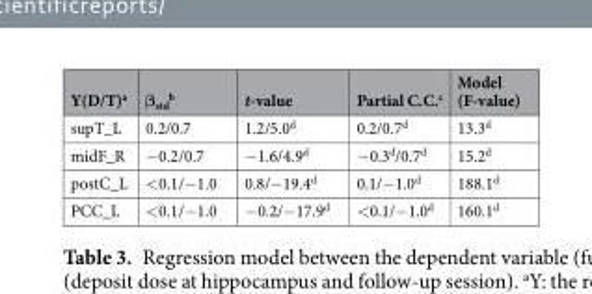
<table><thead><tr><td>Y(D/T)<sup>a</sup></td><td>β<sub>std</sub> <sup>b</sup></td><td>t-value</td><td>Partial C.C.<sup>c</sup></td><td>Model (F-value)</td></tr></thead><tbody><tr><td>supT_L</td><td>0.2/0.7</td><td>1.2/5.0<sup>d</sup></td><td>0.2/0.7<sup>d</sup></td><td>13.3<sup>d</sup></td></tr><tr><td>midF_R</td><td>−0.2/0.7</td><td>−1.6/4.9<sup>d</sup></td><td>−0.3<sup>d</sup>/0.7<sup>d</sup></td><td>15.2<sup>d</sup></td></tr><tr><td>postC_L</td><td>&lt;0.1/−1.0</td><td>0.8/−19.4<sup>d</sup></td><td>0.1/−1.0<sup>d</sup></td><td>188.1<sup>d</sup></td></tr><tr><td>PCC_L</td><td>&lt;0.1/−1.0</td><td>−0.2/−17.9<sup>d</sup></td><td>&lt;0.1/−1.0<sup>d</sup></td><td>160.1<sup>d</sup></td></tr></tbody></table>